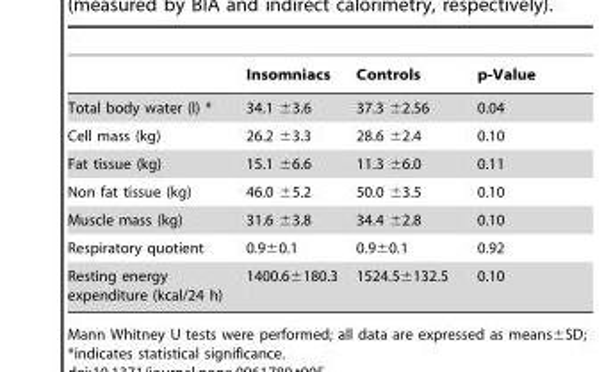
<table><thead><tr><td></td><td>Insomniacs</td><td>Controls</td><td>p-Value</td></tr></thead><tbody><tr><td>Total body water (l) *</td><td>34.1 ±3.6</td><td>37.3 ±2.56</td><td>0.04</td></tr><tr><td>Cell mass (kg)</td><td>26.2 ±3.3</td><td>28.6 ±2.4</td><td>0.10</td></tr><tr><td>Fat tissue (kg)</td><td>15.1 ±6.6</td><td>11.3 ±6.0</td><td>0.11</td></tr><tr><td>Non fat tissue (kg)</td><td>46.0 ±5.2</td><td>50.0 ±3.5</td><td>0.10</td></tr><tr><td>Muscle mass (kg)</td><td>31.6 ±3.8</td><td>34.4 ±2.8</td><td>0.10</td></tr><tr><td>Respiratory quotient</td><td>0.9±0.1</td><td>0.9±0.1</td><td>0.92</td></tr><tr><td>Resting energy expenditure (kcal/24 h)</td><td>1400.6±180.3</td><td>1524.5±132.5</td><td>0.10</td></tr></tbody></table>